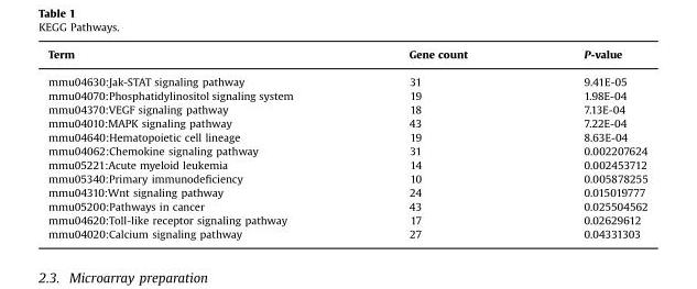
<table><thead><tr><td>Term</td><td>Gene count</td><td>P-value</td></tr></thead><tbody><tr><td>mmu04630:Jak-STAT signaling pathway</td><td>31</td><td>9.41E-05</td></tr><tr><td>mmu04070:Phosphatidylinositol signaling system</td><td>19</td><td>1.98E-04</td></tr><tr><td>mmu04370:VEGF signaling pathway</td><td>18</td><td>7.13E-04</td></tr><tr><td>mmu04010:MAPK signaling pathway</td><td>43</td><td>7.22E-04</td></tr><tr><td>mmu04640:Hematopoietic cell lineage</td><td>19</td><td>8.63E-04</td></tr><tr><td>mmu04062:Chemokine signaling pathway</td><td>31</td><td>0.002207624</td></tr><tr><td>mmu05221:Acute myeloid leukemia</td><td>14</td><td>0.002453712</td></tr><tr><td>mmu05340:Primary immunodeficiency</td><td>10</td><td>0.005878255</td></tr><tr><td>mmu04310:Wnt signaling pathway</td><td>24</td><td>0.015019777</td></tr><tr><td>mmu05200:Pathways in cancer</td><td>43</td><td>0.025504562</td></tr><tr><td>mmu04620:Toll-like receptor signaling pathway</td><td>17</td><td>0.02629612</td></tr><tr><td>mmu04020:Calcium signaling pathway</td><td>27</td><td>0.04331303</td></tr></tbody></table>